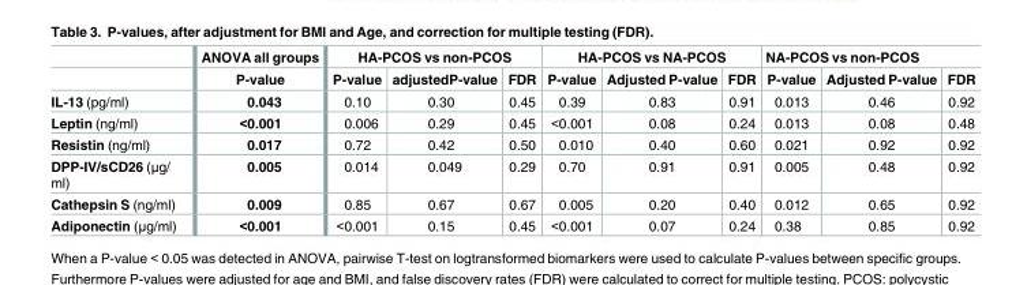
<table><thead><tr><td rowspan="2"></td><td rowspan="2">ANOVA all groups P-value</td><td colspan="3">HA-PCOS vs non-PCOS</td><td colspan="3">HA-PCOS vs NA-PCOS</td><td colspan="3">NA-PCOS vs non-PCOS</td></tr><tr><td>P-value</td><td>adjustedP-value</td><td>FDR</td><td>P-value</td><td>Adjusted P-value</td><td>FDR</td><td>P-value</td><td>Adjusted P-value</td><td>FDR</td></tr></thead><tbody><tr><td>IL-13 (pg/ml)</td><td>0.043</td><td>0.10</td><td>0.30</td><td>0.45</td><td>0.39</td><td>0.83</td><td>0.91</td><td>0.013</td><td>0.46</td><td>0.92</td></tr><tr><td>Leptin (ng/ml)</td><td>&lt;0.001</td><td>0.006</td><td>0.29</td><td>0.45</td><td>&lt;0.001</td><td>0.08</td><td>0.24</td><td>0.013</td><td>0.08</td><td>0.48</td></tr><tr><td>Resistin (ng/ml)</td><td>0.017</td><td>0.72</td><td>0.42</td><td>0.50</td><td>0.010</td><td>0.40</td><td>0.60</td><td>0.021</td><td>0.92</td><td>0.92</td></tr><tr><td>DPP-IV/sCD26 (μg/ ml)</td><td>0.005</td><td>0.014</td><td>0.049</td><td>0.29</td><td>0.70</td><td>0.91</td><td>0.91</td><td>0.005</td><td>0.48</td><td>0.92</td></tr><tr><td>Cathepsin S (ng/ml)</td><td>0.009</td><td>0.85</td><td>0.67</td><td>0.67</td><td>0.005</td><td>0.20</td><td>0.40</td><td>0.012</td><td>0.65</td><td>0.92</td></tr><tr><td>Adiponectin (μg/ml)</td><td>&lt;0.001</td><td>&lt;0.001</td><td>0.15</td><td>0.45</td><td>&lt;0.001</td><td>0.07</td><td>0.24</td><td>0.38</td><td>0.85</td><td>0.92</td></tr></tbody></table>